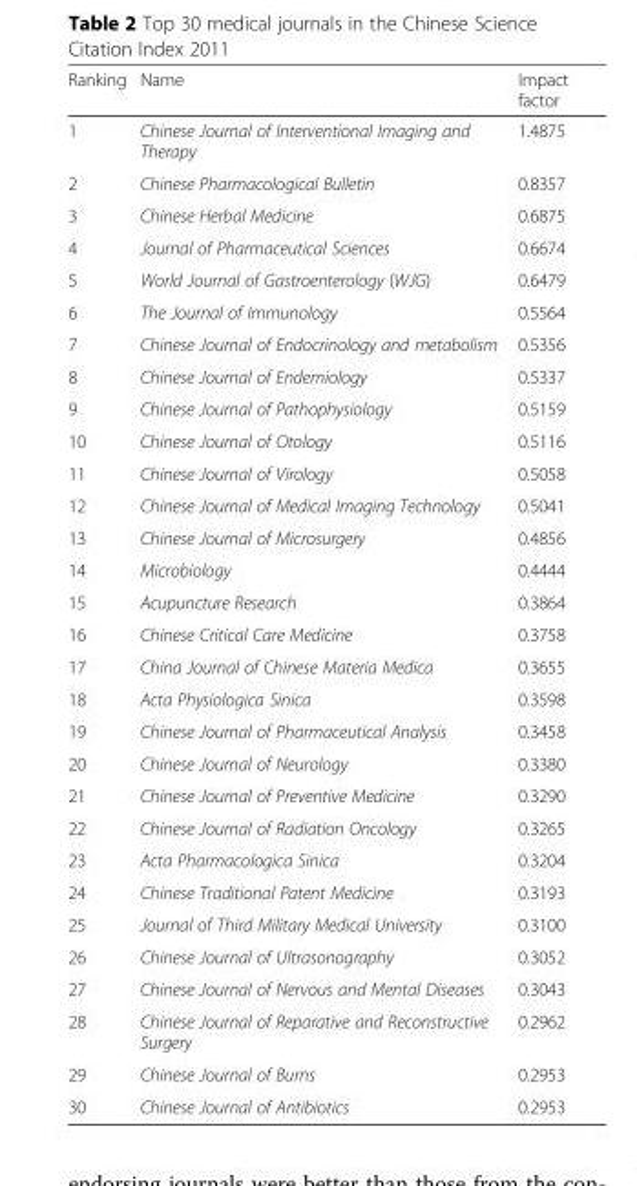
<table><thead><tr><td>Ranking</td><td>Name</td><td>Impact factor</td></tr></thead><tbody><tr><td>1</td><td>Chinese Journal of Interventional Imaging and Therapy</td><td>1.4875</td></tr><tr><td>2</td><td>Chinese Pharmacological Bulletin</td><td>0.8357</td></tr><tr><td>3</td><td>Chinese Herbal Medicine</td><td>0.6875</td></tr><tr><td>4</td><td>Journal of Pharmaceutical Sciences</td><td>0.6674</td></tr><tr><td>5</td><td>World Journal of Gastroenterology (WJG)</td><td>0.6479</td></tr><tr><td>6</td><td>The Journal of Immunology</td><td>0.5564</td></tr><tr><td>7</td><td>Chinese Journal of Endocrinology and metabolism</td><td>0.5356</td></tr><tr><td>8</td><td>Chinese Journal of Endemiology</td><td>0.5337</td></tr><tr><td>9</td><td>Chinese Journal of Pathophysiology</td><td>0.5159</td></tr><tr><td>10</td><td>Chinese Journal of Otology</td><td>0.5116</td></tr><tr><td>11</td><td>Chinese Journal of Virology</td><td>0.5058</td></tr><tr><td>12</td><td>Chinese Journal of Medical Imaging Technology</td><td>0.5041</td></tr><tr><td>13</td><td>Chinese Journal of Microsurgery</td><td>0.4856</td></tr><tr><td>14</td><td>Microbiology</td><td>0.4444</td></tr><tr><td>15</td><td>Acupuncture Research</td><td>0.3864</td></tr><tr><td>16</td><td>Chinese Critical Care Medicine</td><td>0.3758</td></tr><tr><td>17</td><td>China Journal of Chinese Materia Medica</td><td>0.3655</td></tr><tr><td>18</td><td>Acta Physiologica Sinica</td><td>0.3598</td></tr><tr><td>19</td><td>Chinese Journal of Pharmaceutical Analysis</td><td>0.3458</td></tr><tr><td>20</td><td>Chinese Journal of Neurology</td><td>0.3380</td></tr><tr><td>21</td><td>Chinese Journal of Preventive Medicine</td><td>0.3290</td></tr><tr><td>22</td><td>Chinese Journal of Radiation Oncology</td><td>0.3265</td></tr><tr><td>23</td><td>Acta Pharmacologica Sinica</td><td>0.3204</td></tr><tr><td>24</td><td>Chinese Traditional Patent Medicine</td><td>0.3193</td></tr><tr><td>25</td><td>Journal of Third Military Medical University</td><td>0.3100</td></tr><tr><td>26</td><td>Chinese Journal of Ultrasonography</td><td>0.3052</td></tr><tr><td>27</td><td>Chinese Journal of Nervous and Mental Diseases</td><td>0.3043</td></tr><tr><td>28</td><td>Chinese Journal of Reparative and Reconstructive Surgery</td><td>0.2962</td></tr><tr><td>29</td><td>Chinese Journal of Burns</td><td>0.2953</td></tr><tr><td>30</td><td>Chinese Journal of Antibiotics</td><td>0.2953</td></tr></tbody></table>